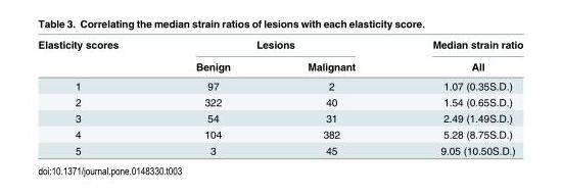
<table><thead><tr><td rowspan="2">Elasticity scores</td><td colspan="2">Lesions</td><td rowspan="2">Median strain ratio All</td></tr><tr><td>Benign</td><td>Malignant</td></tr></thead><tbody><tr><td>1</td><td>97</td><td>2</td><td>1.07 (0.35S.D.)</td></tr><tr><td>2</td><td>322</td><td>40</td><td>1.54 (0.65S.D.)</td></tr><tr><td>3</td><td>54</td><td>31</td><td>2.49 (1.49S.D.)</td></tr><tr><td>4</td><td>104</td><td>382</td><td>5.28 (8.75S.D.)</td></tr><tr><td>5</td><td>3</td><td>45</td><td>9.05 (10.50S.D.)</td></tr></tbody></table>